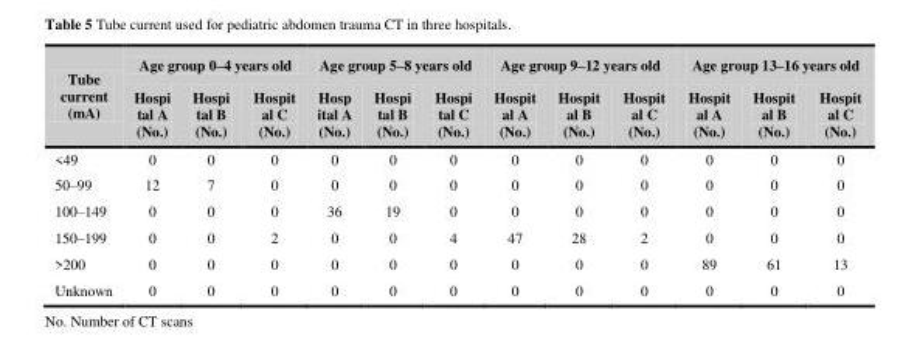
<table><thead><tr><td rowspan="2">Tube current (mA)</td><td colspan="3">Age group 0–4 years old</td><td colspan="3">Age group 5–8 years old</td><td colspan="3">Age group 9–12 years old</td><td colspan="3">Age group 13–16 years old</td></tr><tr><td>Hospi tal A (No.)</td><td>Hospi tal B (No.)</td><td>Hospit al C (No.)</td><td>Hosp ital A (No.)</td><td>Hospi tal B (No.)</td><td>Hospi tal C (No.)</td><td>Hospit al A (No.)</td><td>Hospit al B (No.)</td><td>Hospit al C (No.)</td><td>Hospit al A (No.)</td><td>Hospit al B (No.)</td><td>Hospit al C (No.)</td></tr></thead><tbody><tr><td>&lt;49</td><td>0</td><td>0</td><td>0</td><td>0</td><td>0</td><td>0</td><td>0</td><td>0</td><td>0</td><td>0</td><td>0</td><td>0</td></tr><tr><td>50–99</td><td>12</td><td>7</td><td>0</td><td>0</td><td>0</td><td>0</td><td>0</td><td>0</td><td>0</td><td>0</td><td>0</td><td>0</td></tr><tr><td>100–149</td><td>0</td><td>0</td><td>0</td><td>36</td><td>19</td><td>0</td><td>0</td><td>0</td><td>0</td><td>0</td><td>0</td><td>0</td></tr><tr><td>150–199</td><td>0</td><td>0</td><td>2</td><td>0</td><td>0</td><td>4</td><td>47</td><td>28</td><td>2</td><td>0</td><td>0</td><td>0</td></tr><tr><td>&gt;200</td><td>0</td><td>0</td><td>0</td><td>0</td><td>0</td><td>0</td><td>0</td><td>0</td><td>0</td><td>89</td><td>61</td><td>13</td></tr><tr><td>Unknown</td><td>0</td><td>0</td><td>0</td><td>0</td><td>0</td><td>0</td><td>0</td><td>0</td><td>0</td><td>0</td><td>0</td><td>0</td></tr></tbody></table>